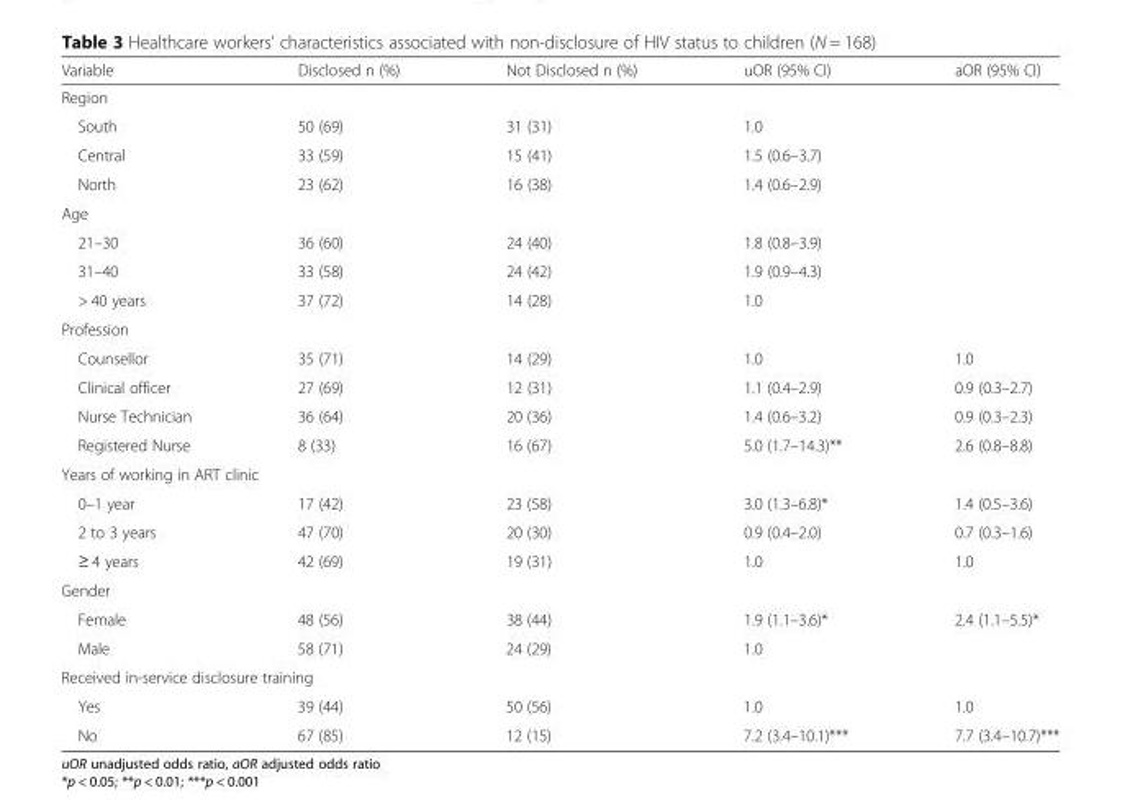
<table><thead><tr><td>Variable</td><td>Disclosed n (%)</td><td>Not Disclosed n (%)</td><td>uOR (95% CI)</td><td>aOR (95% CI)</td></tr></thead><tbody><tr><td colspan="5">Region</td></tr><tr><td>South</td><td>50 (69)</td><td>31 (31)</td><td>1.0</td><td></td></tr><tr><td>Central</td><td>33 (59)</td><td>15 (41)</td><td>1.5 (0.6–3.7)</td><td></td></tr><tr><td>North</td><td>23 (62)</td><td>16 (38)</td><td>1.4 (0.6–2.9)</td><td></td></tr><tr><td colspan="5">Age</td></tr><tr><td>21–30</td><td>36 (60)</td><td>24 (40)</td><td>1.8 (0.8–3.9)</td><td></td></tr><tr><td>31–40</td><td>33 (58)</td><td>24 (42)</td><td>1.9 (0.9–4.3)</td><td></td></tr><tr><td>&gt; 40 years</td><td>37 (72)</td><td>14 (28)</td><td>1.0</td><td></td></tr><tr><td colspan="5">Profession</td></tr><tr><td>Counsellor</td><td>35 (71)</td><td>14 (29)</td><td>1.0</td><td>1.0</td></tr><tr><td>Clinical officer</td><td>27 (69)</td><td>12 (31)</td><td>1.1 (0.4–2.9)</td><td>0.9 (0.3–2.7)</td></tr><tr><td>Nurse Technician</td><td>36 (64)</td><td>20 (36)</td><td>1.4 (0.6–3.2)</td><td>0.9 (0.3–2.3)</td></tr><tr><td>Registered Nurse</td><td>8 (33)</td><td>16 (67)</td><td>5.0 (1.7–14.3)**</td><td>2.6 (0.8–8.8)</td></tr><tr><td colspan="5">Years of working in ART clinic</td></tr><tr><td>0–1 year</td><td>17 (42)</td><td>23 (58)</td><td>3.0 (1.3–6.8)*</td><td>1.4 (0.5–3.6)</td></tr><tr><td>2 to 3 years</td><td>47 (70)</td><td>20 (30)</td><td>0.9 (0.4–2.0)</td><td>0.7 (0.3–1.6)</td></tr><tr><td>≥ 4 years</td><td>42 (69)</td><td>19 (31)</td><td>1.0</td><td>1.0</td></tr><tr><td colspan="5">Gender</td></tr><tr><td>Female</td><td>48 (56)</td><td>38 (44)</td><td>1.9 (1.1–3.6)*</td><td>2.4 (1.1–5.5)*</td></tr><tr><td>Male</td><td>58 (71)</td><td>24 (29)</td><td>1.0</td><td></td></tr><tr><td colspan="5">Received in-service disclosure training</td></tr><tr><td>Yes</td><td>39 (44)</td><td>50 (56)</td><td>1.0</td><td>1.0</td></tr><tr><td>No</td><td>67 (85)</td><td>12 (15)</td><td>7.2 (3.4–10.1)***</td><td>7.7 (3.4–10.7)***</td></tr></tbody></table>